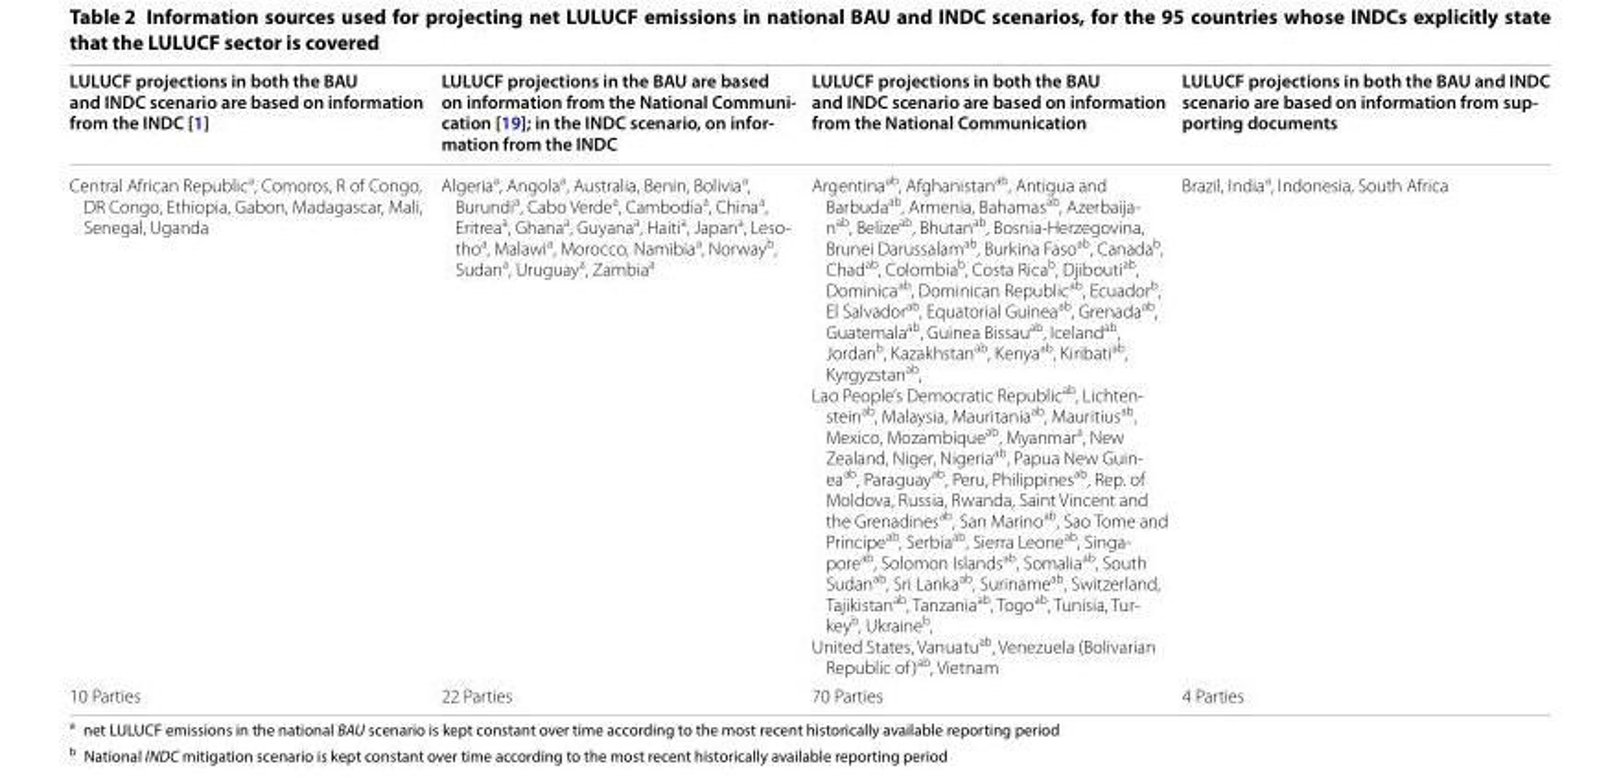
<table><thead><tr><td>LULUCF projections in both the BAU and INDC scenario are based on information from the INDC [1]</td><td>LULUCF projections in the BAU are based on information from the National Communi‑ cation [19]; in the INDC scenario, on infor‑ mation from the INDC</td><td>LULUCF projections in both the BAU and INDC scenario are based on information from the National Communication</td><td>LULUCF projections in both the BAU and INDC scenario are based on information from sup‑ porting documents</td></tr></thead><tbody><tr><td>Central African Republic<sup>a</sup>, Comoros, R of Congo, DR Congo, Ethiopia, Gabon, Madagascar, Mali, Senegal, Uganda</td><td>Algeriaa, Angolaa, Australia, Benin, Boliviaa, Burundia, Cabo Verdea, Cambodiaa, Chinaa, Eritreaa, Ghanaa, Guyanaa, Haitia, Japana, Leso- thoa, Malawia, Morocco, Namibiaa, Norwayb, Sudana, Uruguaya, Zambiaa</td><td>Argentinaab, Afghanistanab, Antigua and Barbudaab, Armenia, Bahamasab, Azerbaija- nab, Belizeab, Bhutanab, Bosnia-Herzegovina, Brunei Darussalamab, Burkina Fasoab, Canadab, Chadab, Colombiab, Costa Ricab, Djiboutiab, Dominicaab, Dominican Republicab, Ecuadorb, El Salvadorab, Equatorial Guineaab, Grenadaab, Guatemalaab, Guinea Bissauab, Icelandab, Jordanb, Kazakhstanab, Kenyaab, Kiribatiab, Kyrgyzstanab, Lao People’s Democratic Republicab, Lichten- steinab, Malaysia, Mauritaniaab, Mauritiusab, Mexico, Mozambiqueab, Myanmara, New Zealand, Niger, Nigeriaab, Papua New Guin- eaab, Paraguayab, Peru, Philippinesab, Rep. of Moldova, Russia, Rwanda, Saint Vincent and the Grenadinesab, San Marinoab, Sao Tome and Principeab, Serbiaab, Sierra Leoneab, Singa- poreab, Solomon Islandsab, Somaliaab, South Sudanab, Sri Lankaab, Surinameab, Switzerland, Tajikistanab, Tanzaniaab, Togoab, Tunisia, Tur- keyb, Ukraineb, United States, Vanuatuab, Venezuela (Bolivarian Republic of)ab, Vietnam</td><td>Brazil, India<sup>a</sup>, Indonesia, South Africa</td></tr><tr><td>10 Parties</td><td>22 Parties</td><td>70 Parties</td><td>4 Parties</td></tr></tbody></table>